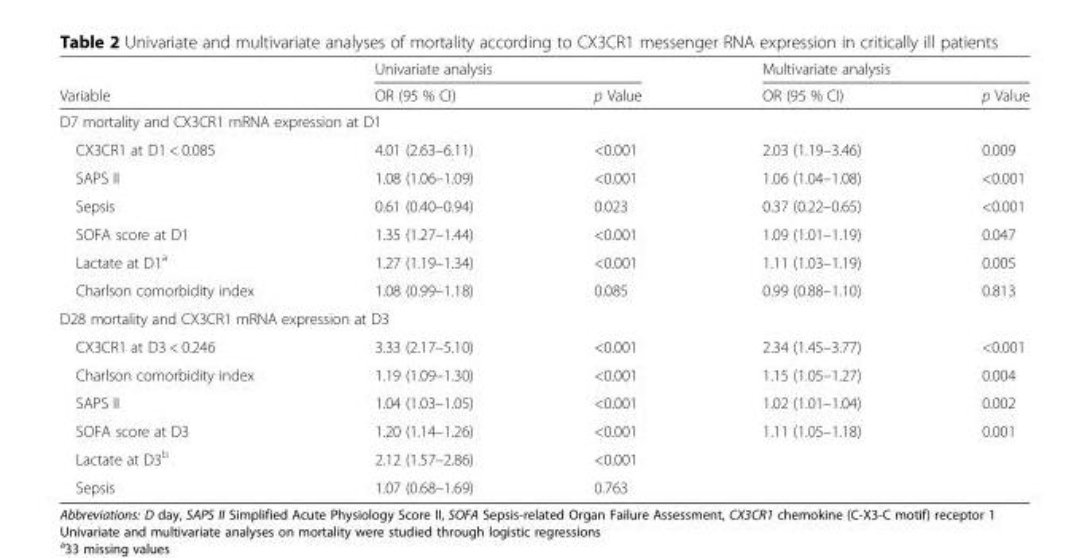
<table><thead><tr><td rowspan="2">Variable</td><td colspan="2">Univariate analysis</td><td colspan="2">Multivariate analysis</td></tr><tr><td>OR (95 % CI)</td><td>p Value</td><td>OR (95 % CI)</td><td>p Value</td></tr></thead><tbody><tr><td colspan="5">D7 mortality and CX3CR1 mRNA expression at D1</td></tr><tr><td>CX3CR1 at D1 &lt; 0.085</td><td>4.01 (2.63–6.11)</td><td>&lt;0.001</td><td>2.03 (1.19–3.46)</td><td>0.009</td></tr><tr><td>SAPS II</td><td>1.08 (1.06–1.09)</td><td>&lt;0.001</td><td>1.06 (1.04–1.08)</td><td>&lt;0.001</td></tr><tr><td>Sepsis</td><td>0.61 (0.40–0.94)</td><td>0.023</td><td>0.37 (0.22–0.65)</td><td>&lt;0.001</td></tr><tr><td>SOFA score at D1</td><td>1.35 (1.27–1.44)</td><td>&lt;0.001</td><td>1.09 (1.01–1.19)</td><td>0.047</td></tr><tr><td>Lactate at D1<sup>a</sup></td><td>1.27 (1.19–1.34)</td><td>&lt;0.001</td><td>1.11 (1.03–1.19)</td><td>0.005</td></tr><tr><td>Charlson comorbidity index</td><td>1.08 (0.99–1.18)</td><td>0.085</td><td>0.99 (0.88–1.10)</td><td>0.813</td></tr><tr><td colspan="5">D28 mortality and CX3CR1 mRNA expression at D3</td></tr><tr><td>CX3CR1 at D3 &lt; 0.246</td><td>3.33 (2.17–5.10)</td><td>&lt;0.001</td><td>2.34 (1.45–3.77)</td><td>&lt;0.001</td></tr><tr><td>Charlson comorbidity index</td><td>1.19 (1.09–1.30)</td><td>&lt;0.001</td><td>1.15 (1.05–1.27)</td><td>0.004</td></tr><tr><td>SAPS II</td><td>1.04 (1.03–1.05)</td><td>&lt;0.001</td><td>1.02 (1.01–1.04)</td><td>0.002</td></tr><tr><td>SOFA score at D3</td><td>1.20 (1.14–1.26)</td><td>&lt;0.001</td><td>1.11 (1.05–1.18)</td><td>0.001</td></tr><tr><td>Lactate at D3<sup>b</sup></td><td>2.12 (1.57–2.86)</td><td>&lt;0.001</td><td colspan="2"></td></tr><tr><td>Sepsis</td><td>1.07 (0.68–1.69)</td><td>0.763</td><td colspan="2"></td></tr></tbody></table>